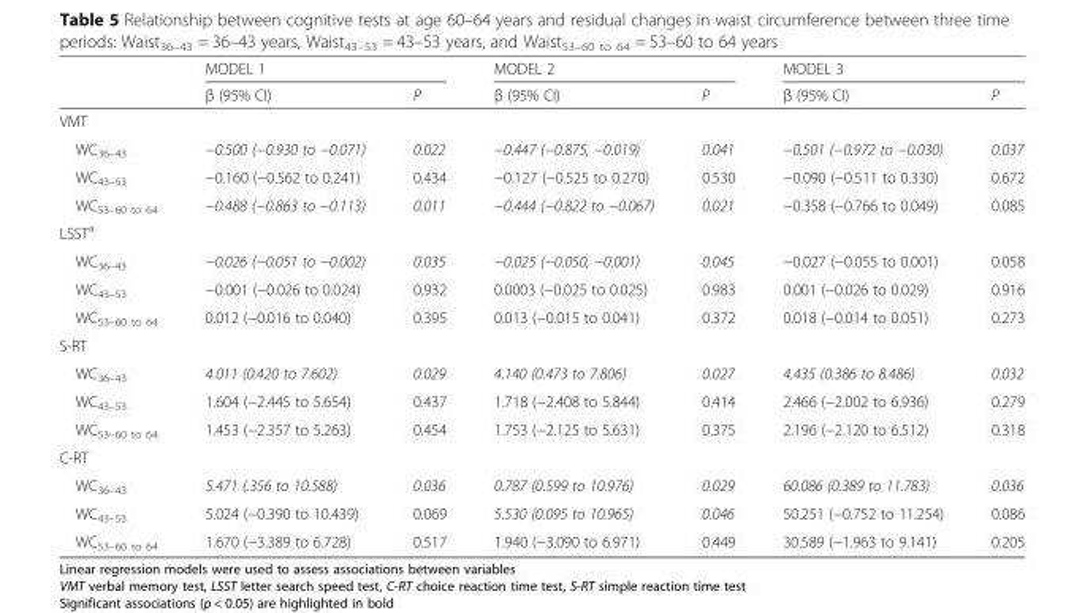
<table><thead><tr><td rowspan="2"></td><td colspan="2">MODEL 1</td><td colspan="2">MODEL 2</td><td colspan="2">MODEL 3</td></tr><tr><td>β (95% CI)</td><td>P</td><td>β (95% CI)</td><td>P</td><td>β (95% CI)</td><td>P</td></tr></thead><tbody><tr><td colspan="7">VMT</td></tr><tr><td>WC<sub>36–43</sub></td><td>−0.500 (−0.930 to −0.071)</td><td>0.022</td><td>−0.447 (−0.875, −0.019)</td><td>0.041</td><td>−0.501 (−0.972 to −0.030)</td><td>0.037</td></tr><tr><td>WC<sub>43–53</sub></td><td>−0.160 (−0.562 to 0.241)</td><td>0.434</td><td>−0.127 (−0.525 to 0.270)</td><td>0.530</td><td>−0.090 (−0.511 to 0.330)</td><td>0.672</td></tr><tr><td>WC<sub>53–60 to 64</sub></td><td>−0.488 (−0.863 to −0.113)</td><td>0.011</td><td>−0.444 (−0.822 to −0.067)</td><td>0.021</td><td>−0.358 (−0.766 to 0.049)</td><td>0.085</td></tr><tr><td colspan="7">LSST<sup>a</sup></td></tr><tr><td>WC<sub>36–43</sub></td><td>−0.026 (−0.051 to −0.002)</td><td>0.035</td><td>−0.025 (−0.050, −0.001)</td><td>0.045</td><td>−0.027 (−0.055 to 0.001)</td><td>0.058</td></tr><tr><td>WC<sub>43–53</sub></td><td>−0.001 (−0.026 to 0.024)</td><td>0.932</td><td>0.0003 (−0.025 to 0.025)</td><td>0.983</td><td>0.001 (−0.026 to 0.029)</td><td>0.916</td></tr><tr><td>WC<sub>53–60 to 64</sub></td><td>0.012 (−0.016 to 0.040)</td><td>0.395</td><td>0.013 (−0.015 to 0.041)</td><td>0.372</td><td>0.018 (−0.014 to 0.051)</td><td>0.273</td></tr><tr><td colspan="7">S-RT</td></tr><tr><td>WC<sub>36–43</sub></td><td>4.011 (0.420 to 7.602)</td><td>0.029</td><td>4.140 (0.473 to 7.806)</td><td>0.027</td><td>4.435 (0.386 to 8.486)</td><td>0.032</td></tr><tr><td>WC<sub>43–53</sub></td><td>1.604 (−2.445 to 5.654)</td><td>0.437</td><td>1.718 (−2.408 to 5.844)</td><td>0.414</td><td>2.466 (−2.002 to 6.936)</td><td>0.279</td></tr><tr><td>WC<sub>53–60 to 64</sub></td><td>1.453 (−2.357 to 5.263)</td><td>0.454</td><td>1.753 (−2.125 to 5.631)</td><td>0.375</td><td>2.196 (−2.120 to 6.512)</td><td>0.318</td></tr><tr><td colspan="7">C-RT</td></tr><tr><td>WC<sub>36–43</sub></td><td>5.471 (.356 to 10.588)</td><td>0.036</td><td>0.787 (0.599 to 10.976)</td><td>0.029</td><td>60.086 (0.389 to 11.783)</td><td>0.036</td></tr><tr><td>WC<sub>43–53</sub></td><td>5.024 (−0.390 to 10.439)</td><td>0.069</td><td>5.530 (0.095 to 10.965)</td><td>0.046</td><td>50.251 (−0.752 to 11.254)</td><td>0.086</td></tr><tr><td>WC<sub>53–60 to 64</sub></td><td>1.670 (−3.389 to 6.728)</td><td>0.517</td><td>1.940 (−3.090 to 6.971)</td><td>0.449</td><td>30.589 (−1.963 to 9.141)</td><td>0.205</td></tr></tbody></table>